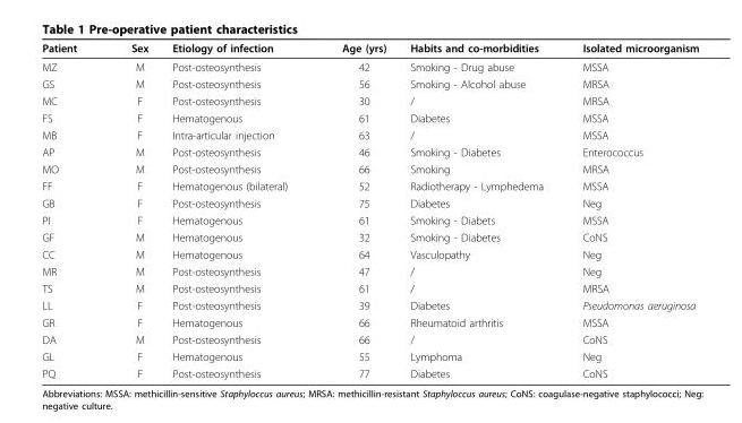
<table><thead><tr><td>Patient</td><td>Sex</td><td>Etiology of infection</td><td>Age (yrs)</td><td>Habits and co-morbidities</td><td>Isolated microorganism</td></tr></thead><tbody><tr><td>MZ</td><td>M</td><td>Post-osteosynthesis</td><td>42</td><td>Smoking - Drug abuse</td><td>MSSA</td></tr><tr><td>GS</td><td>M</td><td>Post-osteosynthesis</td><td>56</td><td>Smoking - Alcohol abuse</td><td>MRSA</td></tr><tr><td>MC</td><td>F</td><td>Post-osteosynthesis</td><td>30</td><td>/</td><td>MRSA</td></tr><tr><td>FS</td><td>F</td><td>Hematogenous</td><td>61</td><td>Diabetes</td><td>MSSA</td></tr><tr><td>MB</td><td>F</td><td>Intra-articular injection</td><td>63</td><td>/</td><td>MSSA</td></tr><tr><td>AP</td><td>M</td><td>Post-osteosynthesis</td><td>46</td><td>Smoking - Diabetes</td><td>Enterococcus</td></tr><tr><td>MO</td><td>M</td><td>Post-osteosynthesis</td><td>66</td><td>Smoking</td><td>MRSA</td></tr><tr><td>FF</td><td>F</td><td>Hematogenous (bilateral)</td><td>52</td><td>Radiotherapy - Lymphedema</td><td>MSSA</td></tr><tr><td>GB</td><td>F</td><td>Post-osteosynthesis</td><td>75</td><td>Diabetes</td><td>Neg</td></tr><tr><td>PI</td><td>F</td><td>Hematogenous</td><td>61</td><td>Smoking - Diabets</td><td>MSSA</td></tr><tr><td>GF</td><td>M</td><td>Hematogenous</td><td>32</td><td>Smoking - Diabetes</td><td>CoNS</td></tr><tr><td>CC</td><td>M</td><td>Hematogenous</td><td>64</td><td>Vasculopathy</td><td>Neg</td></tr><tr><td>MR</td><td>M</td><td>Post-osteosynthesis</td><td>47</td><td>/</td><td>Neg</td></tr><tr><td>TS</td><td>M</td><td>Post-osteosynthesis</td><td>61</td><td>/</td><td>MRSA</td></tr><tr><td>LL</td><td>F</td><td>Post-osteosynthesis</td><td>39</td><td>Diabetes</td><td>Pseudomonas aeruginosa</td></tr><tr><td>GR</td><td>F</td><td>Hematogenous</td><td>66</td><td>Rheumatoid arthritis</td><td>MSSA</td></tr><tr><td>DA</td><td>M</td><td>Post-osteosynthesis</td><td>66</td><td>/</td><td>CoNS</td></tr><tr><td>GL</td><td>F</td><td>Hematogenous</td><td>55</td><td>Lymphoma</td><td>Neg</td></tr><tr><td>PQ</td><td>F</td><td>Post-osteosynthesis</td><td>77</td><td>Diabetes</td><td>CoNS</td></tr></tbody></table>